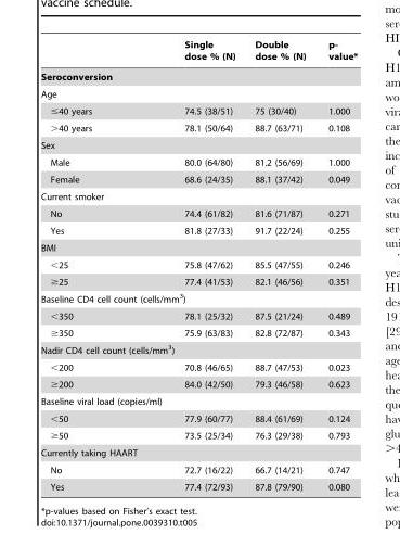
<table><thead><tr><td></td><td>Single dose % (N)</td><td>Double dose % (N)</td><td>p- value*</td></tr></thead><tbody><tr><td colspan="4">Seroconversion</td></tr><tr><td colspan="4">Age</td></tr><tr><td>≤40 years</td><td>74.5 (38/51)</td><td>75 (30/40)</td><td>1.000</td></tr><tr><td>&gt;40 years</td><td>78.1 (50/64)</td><td>88.7 (63/71)</td><td>0.108</td></tr><tr><td colspan="4">Sex</td></tr><tr><td>Male</td><td>80.0 (64/80)</td><td>81.2 (56/69)</td><td>1.000</td></tr><tr><td>Female</td><td>68.6 (24/35)</td><td>88.1 (37/42)</td><td>0.049</td></tr><tr><td colspan="4">Current smoker</td></tr><tr><td>No</td><td>74.4 (61/82)</td><td>81.6 (71/87)</td><td>0.271</td></tr><tr><td>Yes</td><td>81.8 (27/33)</td><td>91.7 (22/24)</td><td>0.255</td></tr><tr><td colspan="4">BMI</td></tr><tr><td>&lt;25</td><td>75.8 (47/62)</td><td>85.5 (47/55)</td><td>0.246</td></tr><tr><td>≥25</td><td>77.4 (41/53)</td><td>82.1 (46/56)</td><td>0.351</td></tr><tr><td colspan="4">Baseline CD4 cell count (cells/mm<sup>3</sup>)</td></tr><tr><td>&lt;350</td><td>78.1 (25/32)</td><td>87.5 (21/24)</td><td>0.489</td></tr><tr><td>≥350</td><td>75.9 (63/83)</td><td>82.8 (72/87)</td><td>0.343</td></tr><tr><td colspan="4">Nadir CD4 cell count (cells/mm<sup>3</sup>)</td></tr><tr><td>&lt;200</td><td>70.8 (46/65)</td><td>88.7 (47/53)</td><td>0.023</td></tr><tr><td>≥200</td><td>84.0 (42/50)</td><td>79.3 (46/58)</td><td>0.623</td></tr><tr><td colspan="4">Baseline viral load (copies/ml)</td></tr><tr><td>&lt;50</td><td>77.9 (60/77)</td><td>88.4 (61/69)</td><td>0.124</td></tr><tr><td>≥50</td><td>73.5 (25/34)</td><td>76.3 (29/38)</td><td>0.793</td></tr><tr><td colspan="4">Currently taking HAART</td></tr><tr><td>No</td><td>72.7 (16/22)</td><td>66.7 (14/21)</td><td>0.747</td></tr><tr><td>Yes</td><td>77.4 (72/93)</td><td>87.8 (79/90)</td><td>0.080</td></tr></tbody></table>